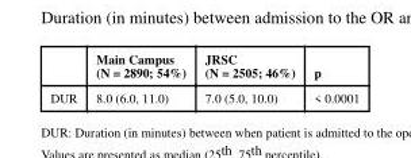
<table><thead><tr><td></td><td>Main Campus (N = 2890; 54%)</td><td>JRSC (N = 2505; 46%)</td><td>p</td></tr></thead><tbody><tr><td>DUR</td><td>8.0 (6.0, 11.0)</td><td>7.0 (5.0, 10.0)</td><td>&lt; 0.0001</td></tr></tbody></table>